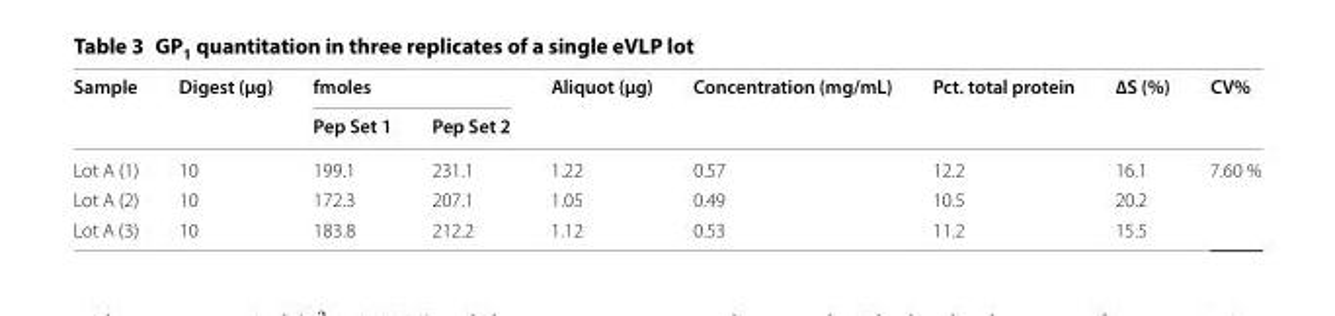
<table><thead><tr><td rowspan="2">Sample</td><td rowspan="2">Digest (µg)</td><td colspan="2">fmoles</td><td rowspan="2">Aliquot (µg)</td><td rowspan="2">Concentration (mg/mL)</td><td rowspan="2">Pct. total protein</td><td rowspan="2">∆S (%)</td><td rowspan="2">CV%</td></tr><tr><td>Pep Set 1</td><td>Pep Set 2</td></tr></thead><tbody><tr><td>Lot A (1)</td><td>10</td><td>199.1</td><td>231.1</td><td>1.22</td><td>0.57</td><td>12.2</td><td>16.1</td><td rowspan="3">7.60 %</td></tr><tr><td>Lot A (2)</td><td>10</td><td>172.3</td><td>207.1</td><td>1.05</td><td>0.49</td><td>10.5</td><td>20.2</td></tr><tr><td>Lot A (3)</td><td>10</td><td>183.8</td><td>212.2</td><td>1.12</td><td>0.53</td><td>11.2</td><td>15.5</td></tr></tbody></table>